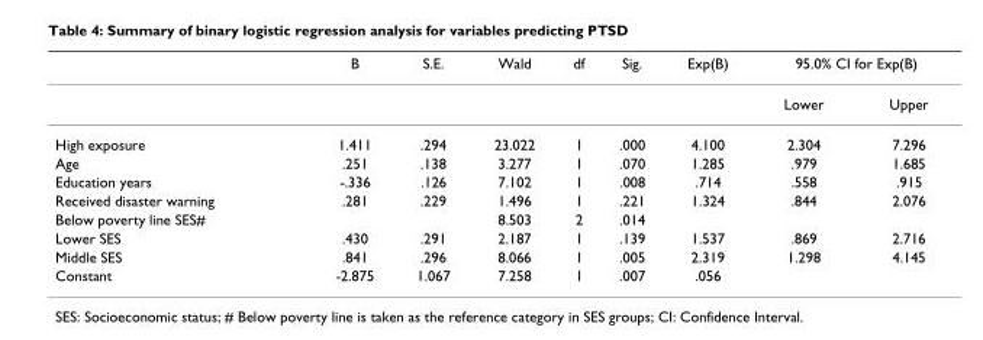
<table><thead><tr><td rowspan="2"></td><td rowspan="2">B</td><td rowspan="2">S.E.</td><td rowspan="2">Wald</td><td rowspan="2">df</td><td rowspan="2">Sig.</td><td rowspan="2">Exp(B)</td><td colspan="2">95.0% CI for Exp(B)</td></tr><tr><td>Lower</td><td>Upper</td></tr></thead><tbody><tr><td>High exposure</td><td>1.411</td><td>.294</td><td>23.022</td><td>1</td><td>.000</td><td>4.100</td><td>2.304</td><td>7.296</td></tr><tr><td>Age</td><td>.251</td><td>.138</td><td>3.277</td><td>1</td><td>.070</td><td>1.285</td><td>.979</td><td>1.685</td></tr><tr><td>Education years</td><td>-.336</td><td>.126</td><td>7.102</td><td>1</td><td>.008</td><td>.714</td><td>.558</td><td>.915</td></tr><tr><td>Received disaster warning</td><td>.281</td><td>.229</td><td>1.496</td><td>1</td><td>.221</td><td>1.324</td><td>.844</td><td>2.076</td></tr><tr><td>Below poverty line SES#</td><td></td><td></td><td>8.503</td><td>2</td><td>.014</td><td></td><td></td><td></td></tr><tr><td>Lower SES</td><td>.430</td><td>.291</td><td>2.187</td><td>1</td><td>.139</td><td>1.537</td><td>.869</td><td>2.716</td></tr><tr><td>Middle SES</td><td>.841</td><td>.296</td><td>8.066</td><td>1</td><td>.005</td><td>2.319</td><td>1.298</td><td>4.145</td></tr><tr><td>Constant</td><td>-2.875</td><td>1.067</td><td>7.258</td><td>1</td><td>.007</td><td>.056</td><td></td><td></td></tr></tbody></table>